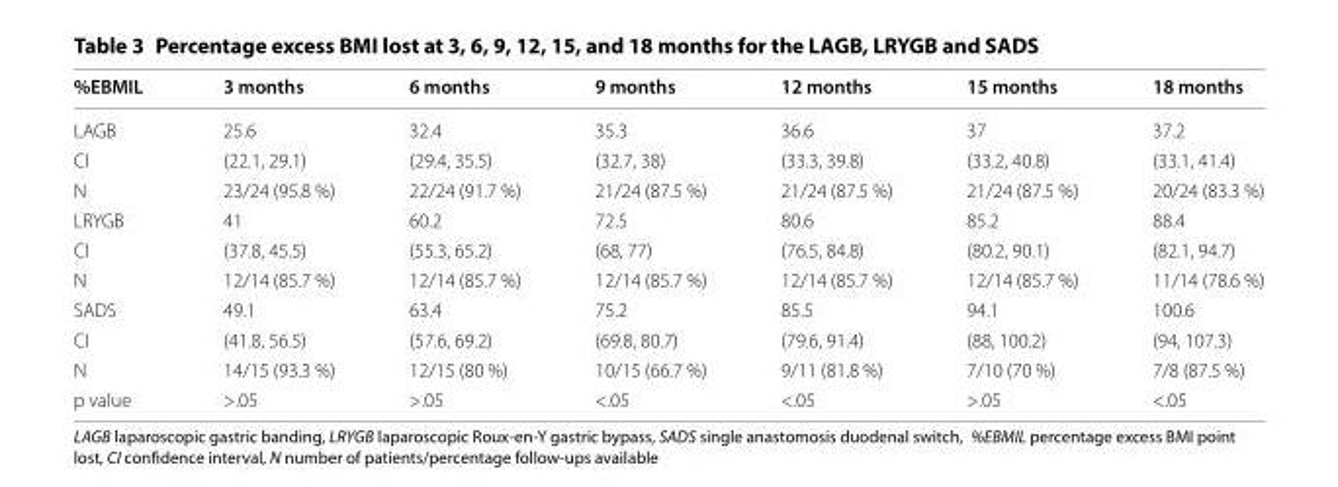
<table><thead><tr><td>%EBMIL</td><td>3 months</td><td>6 months</td><td>9 months</td><td>12 months</td><td>15 months</td><td>18 months</td></tr></thead><tbody><tr><td>LAGB</td><td>25.6</td><td>32.4</td><td>35.3</td><td>36.6</td><td>37</td><td>37.2</td></tr><tr><td>CI</td><td>(22.1, 29.1)</td><td>(29.4, 35.5)</td><td>(32.7, 38)</td><td>(33.3, 39.8)</td><td>(33.2, 40.8)</td><td>(33.1, 41.4)</td></tr><tr><td>N</td><td>23/24 (95.8 %)</td><td>22/24 (91.7 %)</td><td>21/24 (87.5 %)</td><td>21/24 (87.5 %)</td><td>21/24 (87.5 %)</td><td>20/24 (83.3 %)</td></tr><tr><td>LRYGB</td><td>41</td><td>60.2</td><td>72.5</td><td>80.6</td><td>85.2</td><td>88.4</td></tr><tr><td>CI</td><td>(37.8, 45.5)</td><td>(55.3, 65.2)</td><td>(68, 77)</td><td>(76.5, 84.8)</td><td>(80.2, 90.1)</td><td>(82.1, 94.7)</td></tr><tr><td>N</td><td>12/14 (85.7 %)</td><td>12/14 (85.7 %)</td><td>12/14 (85.7 %)</td><td>12/14 (85.7 %)</td><td>12/14 (85.7 %)</td><td>11/14 (78.6 %)</td></tr><tr><td>SADS</td><td>49.1</td><td>63.4</td><td>75.2</td><td>85.5</td><td>94.1</td><td>100.6</td></tr><tr><td>CI</td><td>(41.8, 56.5)</td><td>(57.6, 69.2)</td><td>(69.8, 80.7)</td><td>(79.6, 91.4)</td><td>(88, 100.2)</td><td>(94, 107.3)</td></tr><tr><td>N</td><td>14/15 (93.3 %)</td><td>12/15 (80 %)</td><td>10/15 (66.7 %)</td><td>9/11 (81.8 %)</td><td>7/10 (70 %)</td><td>7/8 (87.5 %)</td></tr><tr><td>p value</td><td>&gt;.05</td><td>&gt;.05</td><td>&lt;.05</td><td>&lt;.05</td><td>&gt;.05</td><td>&lt;.05</td></tr></tbody></table>